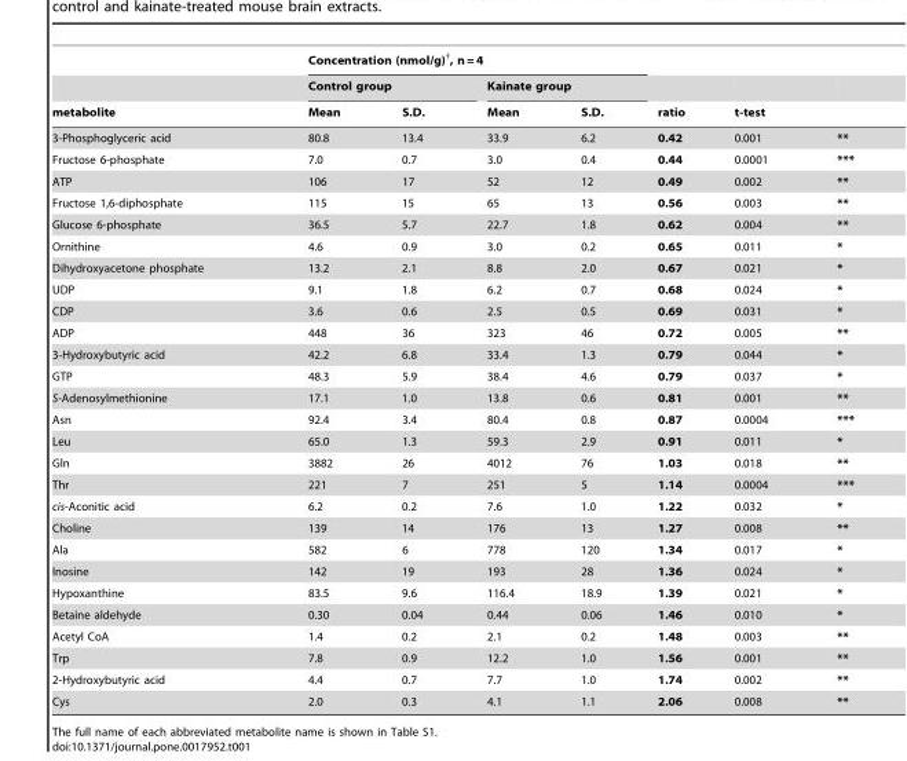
<table><thead><tr><td rowspan="3">metabolite</td><td colspan="4">Concentration (nmol/g)<sup>†</sup>, n = 4</td><td rowspan="3">ratio</td><td rowspan="2"></td><td rowspan="2"></td></tr><tr><td colspan="2">Control group</td><td colspan="2">Kainate group</td></tr><tr><td>Mean</td><td>S.D.</td><td>Mean</td><td>S.D.</td><td colspan="2">t-test</td></tr></thead><tbody><tr><td>3-Phosphoglyceric acid</td><td>80.8</td><td>13.4</td><td>33.9</td><td>6.2</td><td>0.42</td><td>0.001</td><td>**</td></tr><tr><td>Fructose 6-phosphate</td><td>7.0</td><td>0.7</td><td>3.0</td><td>0.4</td><td>0.44</td><td>0.0001</td><td>***</td></tr><tr><td>ATP</td><td>106</td><td>17</td><td>52</td><td>12</td><td>0.49</td><td>0.002</td><td>**</td></tr><tr><td>Fructose 1,6-diphosphate</td><td>115</td><td>15</td><td>65</td><td>13</td><td>0.56</td><td>0.003</td><td>**</td></tr><tr><td>Glucose 6-phosphate</td><td>36.5</td><td>5.7</td><td>22.7</td><td>1.8</td><td>0.62</td><td>0.004</td><td>**</td></tr><tr><td>Ornithine</td><td>4.6</td><td>0.9</td><td>3.0</td><td>0.2</td><td>0.65</td><td>0.011</td><td>*</td></tr><tr><td>Dihydroxyacetone phosphate</td><td>13.2</td><td>2.1</td><td>8.8</td><td>2.0</td><td>0.67</td><td>0.021</td><td>*</td></tr><tr><td>UDP</td><td>9.1</td><td>1.8</td><td>6.2</td><td>0.7</td><td>0.68</td><td>0.024</td><td>*</td></tr><tr><td>CDP</td><td>3.6</td><td>0.6</td><td>2.5</td><td>0.5</td><td>0.69</td><td>0.031</td><td>*</td></tr><tr><td>ADP</td><td>448</td><td>36</td><td>323</td><td>46</td><td>0.72</td><td>0.005</td><td>**</td></tr><tr><td>3-Hydroxybutyric acid</td><td>42.2</td><td>6.8</td><td>33.4</td><td>1.3</td><td>0.79</td><td>0.044</td><td>*</td></tr><tr><td>GTP</td><td>48.3</td><td>5.9</td><td>38.4</td><td>4.6</td><td>0.79</td><td>0.037</td><td>*</td></tr><tr><td>S-Adenosylmethionine</td><td>17.1</td><td>1.0</td><td>13.8</td><td>0.6</td><td>0.81</td><td>0.001</td><td>**</td></tr><tr><td>Asn</td><td>92.4</td><td>3.4</td><td>80.4</td><td>0.8</td><td>0.87</td><td>0.0004</td><td>***</td></tr><tr><td>Leu</td><td>65.0</td><td>1.3</td><td>59.3</td><td>2.9</td><td>0.91</td><td>0.011</td><td>*</td></tr><tr><td>Gln</td><td>3882</td><td>26</td><td>4012</td><td>76</td><td>1.03</td><td>0.018</td><td>**</td></tr><tr><td>Thr</td><td>221</td><td>7</td><td>251</td><td>5</td><td>1.14</td><td>0.0004</td><td>***</td></tr><tr><td>cis-Aconitic acid</td><td>6.2</td><td>0.2</td><td>7.6</td><td>1.0</td><td>1.22</td><td>0.032</td><td>*</td></tr><tr><td>Choline</td><td>139</td><td>14</td><td>176</td><td>13</td><td>1.27</td><td>0.008</td><td>**</td></tr><tr><td>Ala</td><td>582</td><td>6</td><td>778</td><td>120</td><td>1.34</td><td>0.017</td><td>*</td></tr><tr><td>Inosine</td><td>142</td><td>19</td><td>193</td><td>28</td><td>1.36</td><td>0.024</td><td>*</td></tr><tr><td>Hypoxanthine</td><td>83.5</td><td>9.6</td><td>116.4</td><td>18.9</td><td>1.39</td><td>0.021</td><td>*</td></tr><tr><td>Betaine aldehyde</td><td>0.30</td><td>0.04</td><td>0.44</td><td>0.06</td><td>1.46</td><td>0.010</td><td>*</td></tr><tr><td>Acetyl CoA</td><td>1.4</td><td>0.2</td><td>2.1</td><td>0.2</td><td>1.48</td><td>0.003</td><td>**</td></tr><tr><td>Trp</td><td>7.8</td><td>0.9</td><td>12.2</td><td>1.0</td><td>1.56</td><td>0.001</td><td>**</td></tr><tr><td>2-Hydroxybutyric acid</td><td>4.4</td><td>0.7</td><td>7.7</td><td>1.0</td><td>1.74</td><td>0.002</td><td>**</td></tr><tr><td>Cys</td><td>2.0</td><td>0.3</td><td>4.1</td><td>1.1</td><td>2.06</td><td>0.008</td><td>**</td></tr></tbody></table>